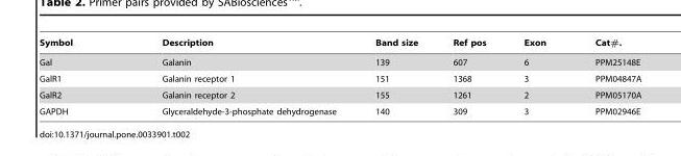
<table><thead><tr><td>Symbol</td><td>Description</td><td>Band size</td><td>Ref pos</td><td>Exon</td><td>Cat#.</td></tr></thead><tbody><tr><td>Gal</td><td>Galanin</td><td>139</td><td>607</td><td>6</td><td>PPM25148E</td></tr><tr><td>GalR1</td><td>Galanin receptor 1</td><td>151</td><td>1368</td><td>3</td><td>PPM04847A</td></tr><tr><td>GalR2</td><td>Galanin receptor 2</td><td>155</td><td>1261</td><td>2</td><td>PPM05170A</td></tr><tr><td>GAPDH</td><td>Glyceraldehyde-3-phosphate dehydrogenase</td><td>140</td><td>309</td><td>3</td><td>PPM02946E</td></tr></tbody></table>